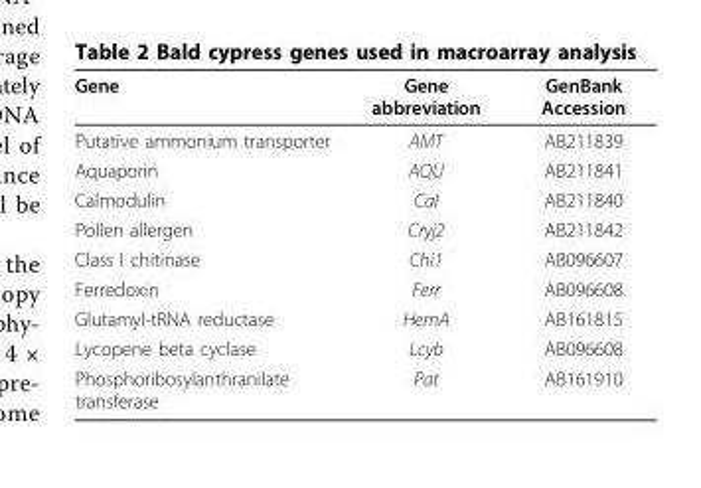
<table><thead><tr><td>Gene</td><td>Gene abbreviation</td><td>GenBank Accession</td></tr></thead><tbody><tr><td>Putative ammonium transporter</td><td>AMT</td><td>AB211839</td></tr><tr><td>Aquaporin</td><td>AQU</td><td>AB211841</td></tr><tr><td>Calmodulin</td><td>Cal</td><td>AB211840</td></tr><tr><td>Pollen allergen</td><td>Cryj2</td><td>AB211842</td></tr><tr><td>Class I chitinase</td><td>Chi1</td><td>AB096607</td></tr><tr><td>Ferredoxin</td><td>Ferr</td><td>AB096608</td></tr><tr><td>Glutamyl-tRNA reductase</td><td>HemA</td><td>AB161815</td></tr><tr><td>Lycopene beta cyclase</td><td>Lcyb</td><td>AB096608</td></tr><tr><td>Phosphoribosylanthranilate transferase</td><td>Pat</td><td>AB161910</td></tr></tbody></table>